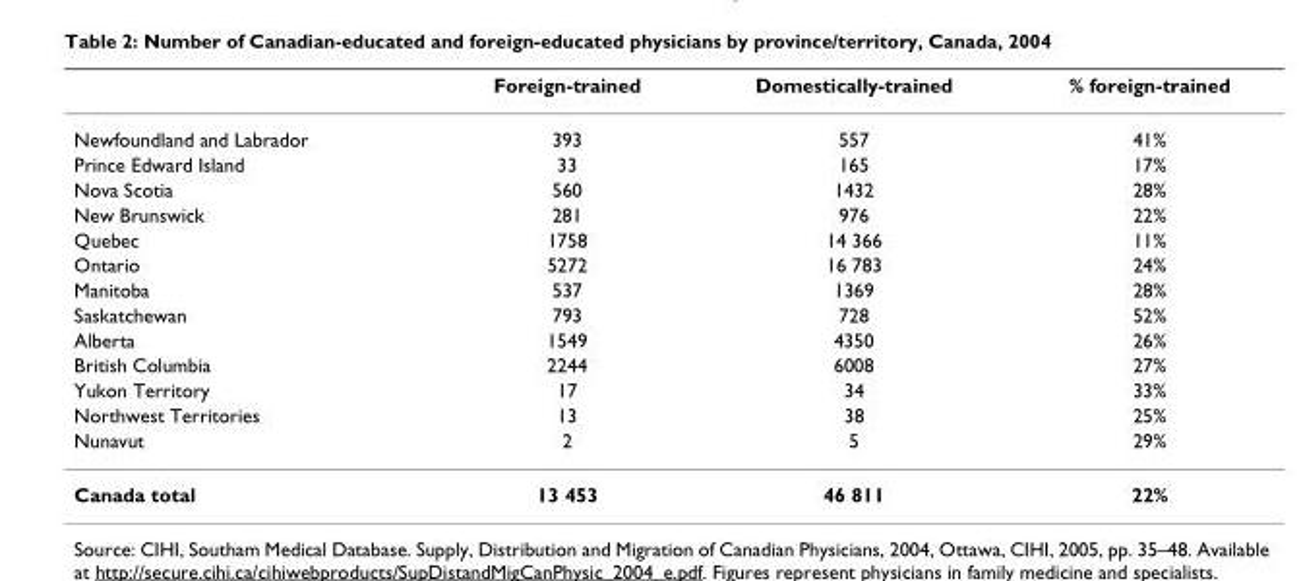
<table><thead><tr><td></td><td>Foreign-trained</td><td>Domestically-trained</td><td>% foreign-trained</td></tr></thead><tbody><tr><td>Newfoundland and Labrador</td><td>393</td><td>557</td><td>41%</td></tr><tr><td>Prince Edward Island</td><td>33</td><td>165</td><td>17%</td></tr><tr><td>Nova Scotia</td><td>560</td><td>1432</td><td>28%</td></tr><tr><td>New Brunswick</td><td>281</td><td>976</td><td>22%</td></tr><tr><td>Quebec</td><td>1758</td><td>14 366</td><td>11%</td></tr><tr><td>Ontario</td><td>5272</td><td>16 783</td><td>24%</td></tr><tr><td>Manitoba</td><td>537</td><td>1369</td><td>28%</td></tr><tr><td>Saskatchewan</td><td>793</td><td>728</td><td>52%</td></tr><tr><td>Alberta</td><td>1549</td><td>4350</td><td>26%</td></tr><tr><td>British Columbia</td><td>2244</td><td>6008</td><td>27%</td></tr><tr><td>Yukon Territory</td><td>17</td><td>34</td><td>33%</td></tr><tr><td>Northwest Territories</td><td>13</td><td>38</td><td>25%</td></tr><tr><td>Nunavut</td><td>2</td><td>5</td><td>29%</td></tr><tr><td>Canada total</td><td>13 453</td><td>46 811</td><td>22%</td></tr></tbody></table>